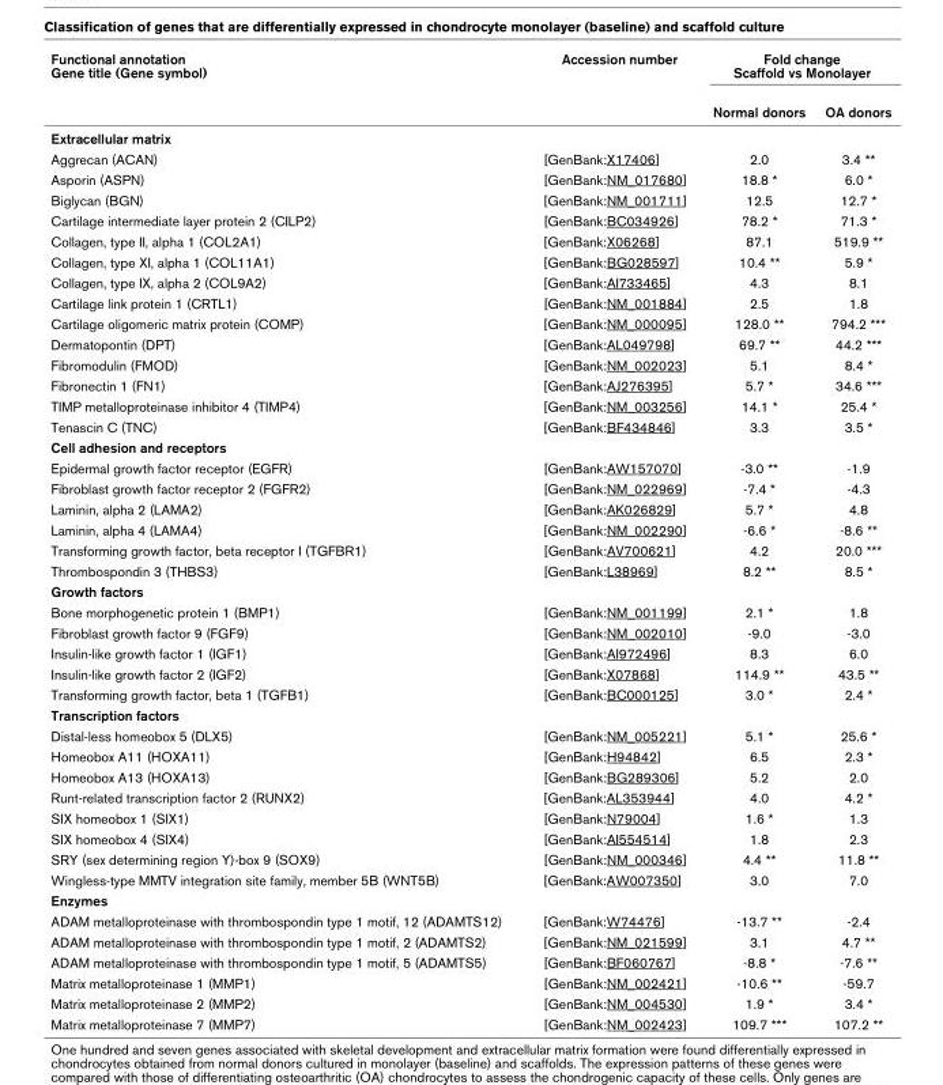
<table><thead><tr><td rowspan="2">Functional annotation Gene title (Gene symbol)</td><td rowspan="2">Accession number</td><td colspan="2">Fold change Scaffold vs Monolayer</td></tr><tr><td>Normal donors</td><td>OA donors</td></tr></thead><tbody><tr><td colspan="4">Extracellular matrix</td></tr><tr><td>Aggrecan (ACAN)</td><td>[GenBank:X17406]</td><td>2.0</td><td>3.4 **</td></tr><tr><td>Asporin (ASPN)</td><td>[GenBank:NM_017680]</td><td>18.8 *</td><td>6.0 *</td></tr><tr><td>Biglycan (BGN)</td><td>[GenBank:NM_001711]</td><td>12.5</td><td>12.7 *</td></tr><tr><td>Cartilage intermediate layer protein 2 (CILP2)</td><td>[GenBank:BC034926]</td><td>78.2 *</td><td>71.3 *</td></tr><tr><td>Collagen, type II, alpha 1 (COL2A1)</td><td>[GenBank:X06268]</td><td>87.1</td><td>519.9 **</td></tr><tr><td>Collagen, type XI, alpha 1 (COL11A1)</td><td>[GenBank:BG028597]</td><td>10.4 **</td><td>5.9 *</td></tr><tr><td>Collagen, type IX, alpha 2 (COL9A2)</td><td>[GenBank:AI733465]</td><td>4.3</td><td>8.1</td></tr><tr><td>Cartilage link protein 1 (CRTL1)</td><td>[GenBank:NM_001884]</td><td>2.5</td><td>1.8</td></tr><tr><td>Cartilage oligomeric matrix protein (COMP)</td><td>[GenBank:NM_000095]</td><td>128.0 **</td><td>794.2 ***</td></tr><tr><td>Dermatopontin (DPT)</td><td>[GenBank:AL049798]</td><td>69.7 **</td><td>44.2 ***</td></tr><tr><td>Fibromodulin (FMOD)</td><td>[GenBank:NM_002023]</td><td>5.1</td><td>8.4 *</td></tr><tr><td>Fibronectin 1 (FN1)</td><td>[GenBank:AJ276395]</td><td>5.7 *</td><td>34.6 ***</td></tr><tr><td>TIMP metalloproteinase inhibitor 4 (TIMP4)</td><td>[GenBank:NM_003256]</td><td>14.1 *</td><td>25.4 *</td></tr><tr><td>Tenascin C (TNC)</td><td>[GenBank:BF434846]</td><td>3.3</td><td>3.5 *</td></tr><tr><td colspan="4">Cell adhesion and receptors</td></tr><tr><td>Epidermal growth factor receptor (EGFR)</td><td>[GenBank:AW157070]</td><td>-3.0 **</td><td>-1.9</td></tr><tr><td>Fibroblast growth factor receptor 2 (FGFR2)</td><td>[GenBank:NM_022969]</td><td>-7.4 *</td><td>-4.3</td></tr><tr><td>Laminin, alpha 2 (LAMA2)</td><td>[GenBank:AK026829]</td><td>5.7 *</td><td>4.8</td></tr><tr><td>Laminin, alpha 4 (LAMA4)</td><td>[GenBank:NM_002290]</td><td>-6.6 *</td><td>-8.6 **</td></tr><tr><td>Transforming growth factor, beta receptor I (TGFBR1)</td><td>[GenBank:AV700621]</td><td>4.2</td><td>20.0 ***</td></tr><tr><td>Thrombospondin 3 (THBS3)</td><td>[GenBank:L38969]</td><td>8.2 **</td><td>8.5 *</td></tr><tr><td colspan="4">Growth factors</td></tr><tr><td>Bone morphogenetic protein 1 (BMP1)</td><td>[GenBank:NM_001199]</td><td>2.1 *</td><td>1.8</td></tr><tr><td>Fibroblast growth factor 9 (FGF9)</td><td>[GenBank:NM_002010]</td><td>-9.0</td><td>-3.0</td></tr><tr><td>Insulin-like growth factor 1 (IGF1)</td><td>[GenBank:AI972496]</td><td>8.3</td><td>6.0</td></tr><tr><td>Insulin-like growth factor 2 (IGF2)</td><td>[GenBank:X07868]</td><td>114.9 **</td><td>43.5 **</td></tr><tr><td>Transforming growth factor, beta 1 (TGFB1)</td><td>[GenBank:BC000125]</td><td>3.0 *</td><td>2.4 *</td></tr><tr><td colspan="4">Transcription factors</td></tr><tr><td>Distal-less homeobox 5 (DLX5)</td><td>[GenBank:NM_005221]</td><td>5.1 *</td><td>25.6 *</td></tr><tr><td>Homeobox A11 (HOXA11)</td><td>[GenBank:H94842]</td><td>6.5</td><td>2.3 *</td></tr><tr><td>Homeobox A13 (HOXA13)</td><td>[GenBank:BG289306]</td><td>5.2</td><td>2.0</td></tr><tr><td>Runt-related transcription factor 2 (RUNX2)</td><td>[GenBank:AL353944]</td><td>4.0</td><td>4.2 *</td></tr><tr><td>SIX homeobox 1 (SIX1)</td><td>[GenBank:N79004]</td><td>1.6 *</td><td>1.3</td></tr><tr><td>SIX homeobox 4 (SIX4)</td><td>[GenBank:AI554514]</td><td>1.8</td><td>2.3</td></tr><tr><td>SRY (sex determining region Y)-box 9 (SOX9)</td><td>[GenBank:NM_000346]</td><td>4.4 **</td><td>11.8 **</td></tr><tr><td>Wingless-type MMTV integration site family, member 5B (WNT5B)</td><td>[GenBank:AW007350]</td><td>3.0</td><td>7.0</td></tr><tr><td colspan="4">Enzymes</td></tr><tr><td>ADAM metalloproteinase with thrombospondin type 1 motif, 12 (ADAMTS12)</td><td>[GenBank:W74476]</td><td>-13.7 **</td><td>-2.4</td></tr><tr><td>ADAM metalloproteinase with thrombospondin type 1 motif, 2 (ADAMTS2)</td><td>[GenBank:NM_021599]</td><td>3.1</td><td>4.7 **</td></tr><tr><td>ADAM metalloproteinase with thrombospondin type 1 motif, 5 (ADAMTS5)</td><td>[GenBank:BF060767]</td><td>-8.8 *</td><td>-7.6 **</td></tr><tr><td>Matrix metalloproteinase 1 (MMP1)</td><td>[GenBank:NM_002421]</td><td>-10.6 **</td><td>-59.7</td></tr><tr><td>Matrix metalloproteinase 2 (MMP2)</td><td>[GenBank:NM_004530]</td><td>1.9 *</td><td>3.4 *</td></tr><tr><td>Matrix metalloproteinase 7 (MMP7)</td><td>[GenBank:NM_002423]</td><td>109.7 ***</td><td>107.2 **</td></tr></tbody></table>